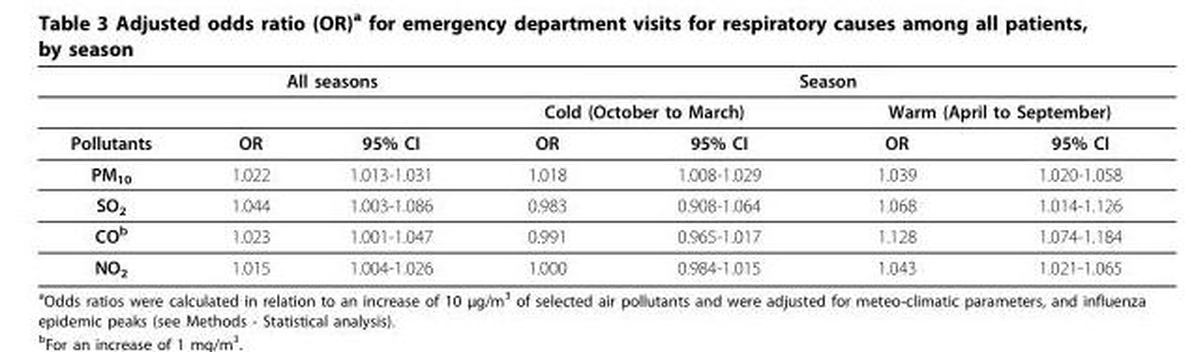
<table><thead><tr><td rowspan="3">Pollutants</td><td rowspan="2" colspan="2">All seasons</td><td colspan="4">Season</td></tr><tr><td colspan="2">Cold (October to March)</td><td colspan="2">Warm (April to September)</td></tr><tr><td>OR</td><td>95% CI</td><td>OR</td><td>95% CI</td><td>OR</td><td>95% CI</td></tr></thead><tbody><tr><td>PM<sub>10</sub></td><td>1.022</td><td>1.013-1.031</td><td>1.018</td><td>1.008-1.029</td><td>1.039</td><td>1.020-1.058</td></tr><tr><td>SO<sub>2</sub></td><td>1.044</td><td>1.003-1.086</td><td>0.983</td><td>0.908-1.064</td><td>1.068</td><td>1.014-1.126</td></tr><tr><td>CO<sup>b</sup></td><td>1.023</td><td>1.001-1.047</td><td>0.991</td><td>0.965-1.017</td><td>1.128</td><td>1.074-1.184</td></tr><tr><td>NO<sub>2</sub></td><td>1.015</td><td>1.004-1.026</td><td>1.000</td><td>0.984-1.015</td><td>1.043</td><td>1.021-1.065</td></tr></tbody></table>